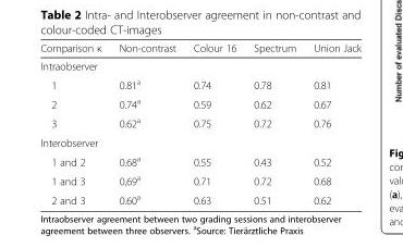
<table><thead><tr><td>Comparison κ</td><td>Non-contrast</td><td>Colour 16</td><td>Spectrum</td><td>Union Jack</td></tr></thead><tbody><tr><td colspan="5">Intraobserver</td></tr><tr><td>1</td><td>0.81<sup>a</sup></td><td>0.74</td><td>0.78</td><td>0.81</td></tr><tr><td>2</td><td>0.74<sup>a</sup></td><td>0.59</td><td>0.62</td><td>0.67</td></tr><tr><td>3</td><td>0.62<sup>a</sup></td><td>0.75</td><td>0.72</td><td>0.76</td></tr><tr><td colspan="5">Interobserver</td></tr><tr><td>1 and 2</td><td>0.68<sup>a</sup></td><td>0.55</td><td>0.43</td><td>0.52</td></tr><tr><td>1 and 3</td><td>0,69<sup>a</sup></td><td>0.71</td><td>0.72</td><td>0.68</td></tr><tr><td>2 and 3</td><td>0.60<sup>a</sup></td><td>0.63</td><td>0.51</td><td>0.62</td></tr></tbody></table>